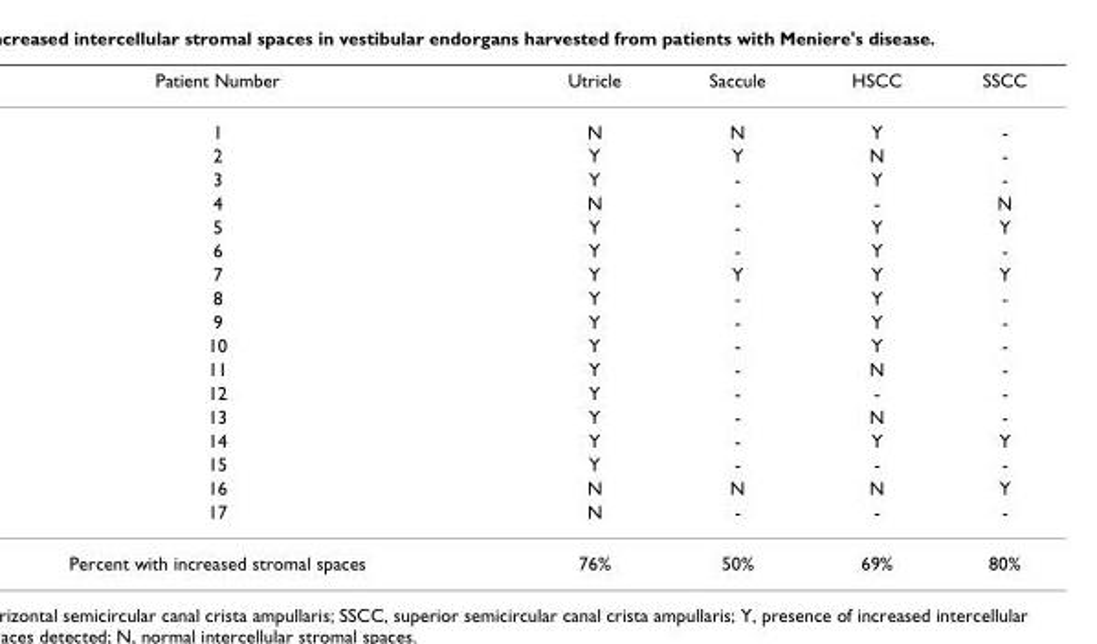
<table><thead><tr><td>Patient Number</td><td>Utricle</td><td>Saccule</td><td>HSCC</td><td>SSCC</td></tr></thead><tbody><tr><td>1</td><td>N</td><td>N</td><td>Y</td><td>-</td></tr><tr><td>2</td><td>Y</td><td>Y</td><td>N</td><td>-</td></tr><tr><td>3</td><td>Y</td><td>-</td><td>Y</td><td>-</td></tr><tr><td>4</td><td>N</td><td>-</td><td>-</td><td>N</td></tr><tr><td>5</td><td>Y</td><td>-</td><td>Y</td><td>Y</td></tr><tr><td>6</td><td>Y</td><td>-</td><td>Y</td><td>-</td></tr><tr><td>7</td><td>Y</td><td>Y</td><td>Y</td><td>Y</td></tr><tr><td>8</td><td>Y</td><td>-</td><td>Y</td><td>-</td></tr><tr><td>9</td><td>Y</td><td>-</td><td>Y</td><td>-</td></tr><tr><td>10</td><td>Y</td><td>-</td><td>Y</td><td>-</td></tr><tr><td>11</td><td>Y</td><td>-</td><td>N</td><td>-</td></tr><tr><td>12</td><td>Y</td><td>-</td><td>-</td><td>-</td></tr><tr><td>13</td><td>Y</td><td>-</td><td>N</td><td>-</td></tr><tr><td>14</td><td>Y</td><td>-</td><td>Y</td><td>Y</td></tr><tr><td>15</td><td>Y</td><td>-</td><td>-</td><td>-</td></tr><tr><td>16</td><td>N</td><td>N</td><td>N</td><td>Y</td></tr><tr><td>17</td><td>N</td><td>-</td><td>-</td><td>-</td></tr><tr><td>Percent with increased stromal spaces</td><td>76%</td><td>50%</td><td>69%</td><td>80%</td></tr></tbody></table>